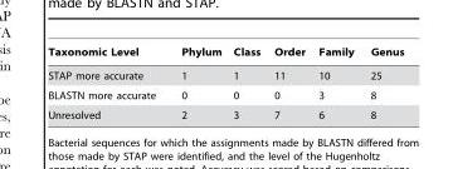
<table><thead><tr><td>Taxonomic Level</td><td>Phylum</td><td>Class</td><td>Order</td><td>Family</td><td>Genus</td></tr></thead><tbody><tr><td>STAP more accurate</td><td>1</td><td>1</td><td>11</td><td>10</td><td>25</td></tr><tr><td>BLASTN more accurate</td><td>0</td><td>0</td><td>0</td><td>3</td><td>8</td></tr><tr><td>Unresolved</td><td>2</td><td>3</td><td>7</td><td>6</td><td>8</td></tr></tbody></table>